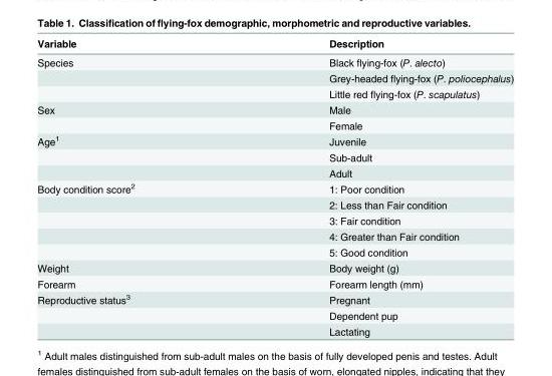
<table><thead><tr><td>Variable</td><td>Description</td></tr></thead><tbody><tr><td rowspan="3">Species</td><td>Black flying-fox (P. alecto)</td></tr><tr><td>Grey-headed flying-fox (P. poliocephalus)</td></tr><tr><td>Little red flying-fox (P. scapulatus)</td></tr><tr><td rowspan="2">Sex</td><td>Male</td></tr><tr><td>Female</td></tr><tr><td rowspan="3">Age<sup>1</sup></td><td>Juvenile</td></tr><tr><td>Sub-adult</td></tr><tr><td>Adult</td></tr><tr><td rowspan="5">Body condition score<sup>2</sup></td><td>1: Poor condition</td></tr><tr><td>2: Less than Fair condition</td></tr><tr><td>3: Fair condition</td></tr><tr><td>4: Greater than Fair condition</td></tr><tr><td>5: Good condition</td></tr><tr><td>Weight</td><td>Body weight (g)</td></tr><tr><td>Forearm</td><td>Forearm length (mm)</td></tr><tr><td rowspan="3">Reproductive status<sup>3</sup></td><td>Pregnant</td></tr><tr><td>Dependent pup</td></tr><tr><td>Lactating</td></tr></tbody></table>